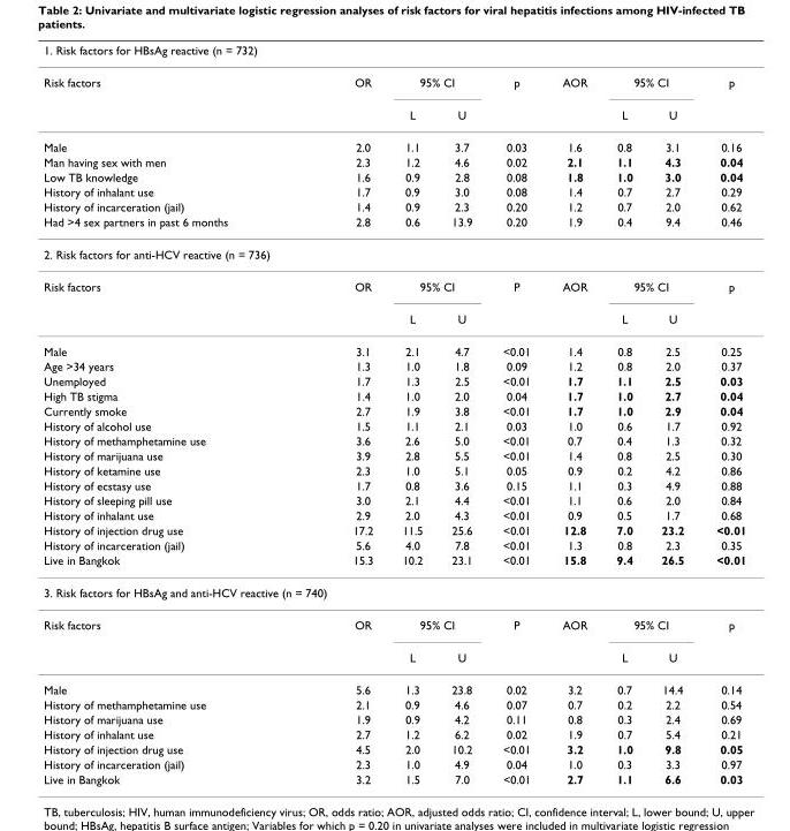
<table><thead><tr><td colspan="9">1. Risk factors for HBsAg reactive (n = 732)</td></tr><tr><td rowspan="2">Risk factors</td><td rowspan="2">OR</td><td colspan="2">95% CI</td><td rowspan="2">p</td><td rowspan="2">AOR</td><td colspan="2">95% CI</td><td rowspan="2">p</td></tr><tr><td>L</td><td>U</td><td>L</td><td>U</td></tr></thead><tbody><tr><td>Male</td><td>2.0</td><td>1.1</td><td>3.7</td><td>0.03</td><td>1.6</td><td>0.8</td><td>3.1</td><td>0.16</td></tr><tr><td>Man having sex with men</td><td>2.3</td><td>1.2</td><td>4.6</td><td>0.02</td><td>2.1</td><td>1.1</td><td>4.3</td><td>0.04</td></tr><tr><td>Low TB knowledge</td><td>1.6</td><td>0.9</td><td>2.8</td><td>0.08</td><td>1.8</td><td>1.0</td><td>3.0</td><td>0.04</td></tr><tr><td>History of inhalant use</td><td>1.7</td><td>0.9</td><td>3.0</td><td>0.08</td><td>1.4</td><td>0.7</td><td>2.7</td><td>0.29</td></tr><tr><td>History of incarceration (jail)</td><td>1.4</td><td>0.9</td><td>2.3</td><td>0.20</td><td>1.2</td><td>0.7</td><td>2.0</td><td>0.62</td></tr><tr><td>Had &gt;4 sex partners in past 6 months</td><td>2.8</td><td>0.6</td><td>13.9</td><td>0.20</td><td>1.9</td><td>0.4</td><td>9.4</td><td>0.46</td></tr><tr><td colspan="9">2. Risk factors for anti-HCV reactive (n = 736)</td></tr><tr><td rowspan="2">Risk factors</td><td>OR</td><td colspan="2">95% CI</td><td>P</td><td>AOR</td><td colspan="2">95% CI</td><td>p</td></tr><tr><td></td><td>L</td><td>U</td><td></td><td></td><td>L</td><td>U</td><td></td></tr><tr><td>Male</td><td>3.1</td><td>2.1</td><td>4.7</td><td>&lt;0.01</td><td>1.4</td><td>0.8</td><td>2.5</td><td>0.25</td></tr><tr><td>Age &gt;34 years</td><td>1.3</td><td>1.0</td><td>1.8</td><td>0.09</td><td>1.2</td><td>0.8</td><td>2.0</td><td>0.37</td></tr><tr><td>Unemployed</td><td>1.7</td><td>1.3</td><td>2.5</td><td>&lt;0.01</td><td>1.7</td><td>1.1</td><td>2.5</td><td>0.03</td></tr><tr><td>High TB stigma</td><td>1.4</td><td>1.0</td><td>2.0</td><td>0.04</td><td>1.7</td><td>1.0</td><td>2.7</td><td>0.04</td></tr><tr><td>Currently smoke</td><td>2.7</td><td>1.9</td><td>3.8</td><td>&lt;0.01</td><td>1.7</td><td>1.0</td><td>2.9</td><td>0.04</td></tr><tr><td>History of alcohol use</td><td>1.5</td><td>1.1</td><td>2.1</td><td>0.03</td><td>1.0</td><td>0.6</td><td>1.7</td><td>0.92</td></tr><tr><td>History of methamphetamine use</td><td>3.6</td><td>2.6</td><td>5.0</td><td>&lt;0.01</td><td>0.7</td><td>0.4</td><td>1.3</td><td>0.32</td></tr><tr><td>History of marijuana use</td><td>3.9</td><td>2.8</td><td>5.5</td><td>&lt;0.01</td><td>1.4</td><td>0.8</td><td>2.5</td><td>0.30</td></tr><tr><td>History of ketamine use</td><td>2.3</td><td>1.0</td><td>5.1</td><td>0.05</td><td>0.9</td><td>0.2</td><td>4.2</td><td>0.86</td></tr><tr><td>History of ecstasy use</td><td>1.7</td><td>0.8</td><td>3.6</td><td>0.15</td><td>1.1</td><td>0.3</td><td>4.9</td><td>0.88</td></tr><tr><td>History of sleeping pill use</td><td>3.0</td><td>2.1</td><td>4.4</td><td>&lt;0.01</td><td>1.1</td><td>0.6</td><td>2.0</td><td>0.84</td></tr><tr><td>History of inhalant use</td><td>2.9</td><td>2.0</td><td>4.3</td><td>&lt;0.01</td><td>0.9</td><td>0.5</td><td>1.7</td><td>0.68</td></tr><tr><td>History of injection drug use</td><td>17.2</td><td>11.5</td><td>25.6</td><td>&lt;0.01</td><td>12.8</td><td>7.0</td><td>23.2</td><td>&lt;0.01</td></tr><tr><td>History of incarceration (jail)</td><td>5.6</td><td>4.0</td><td>7.8</td><td>&lt;0.01</td><td>1.3</td><td>0.8</td><td>2.3</td><td>0.35</td></tr><tr><td>Live in Bangkok</td><td>15.3</td><td>10.2</td><td>23.1</td><td>&lt;0.01</td><td>15.8</td><td>9.4</td><td>26.5</td><td>&lt;0.01</td></tr><tr><td colspan="9">3. Risk factors for HBsAg and anti-HCV reactive (n = 740)</td></tr><tr><td rowspan="2">Risk factors</td><td>OR</td><td colspan="2">95% CI</td><td>P</td><td>AOR</td><td colspan="2">95% CI</td><td>p</td></tr><tr><td></td><td>L</td><td>U</td><td></td><td></td><td>L</td><td>U</td><td></td></tr><tr><td>Male</td><td>5.6</td><td>1.3</td><td>23.8</td><td>0.02</td><td>3.2</td><td>0.7</td><td>14.4</td><td>0.14</td></tr><tr><td>History of methamphetamine use</td><td>2.1</td><td>0.9</td><td>4.6</td><td>0.07</td><td>0.7</td><td>0.2</td><td>2.2</td><td>0.54</td></tr><tr><td>History of marijuana use</td><td>1.9</td><td>0.9</td><td>4.2</td><td>0.11</td><td>0.8</td><td>0.3</td><td>2.4</td><td>0.69</td></tr><tr><td>History of inhalant use</td><td>2.7</td><td>1.2</td><td>6.2</td><td>0.02</td><td>1.9</td><td>0.7</td><td>5.4</td><td>0.21</td></tr><tr><td>History of injection drug use</td><td>4.5</td><td>2.0</td><td>10.2</td><td>&lt;0.01</td><td>3.2</td><td>1.0</td><td>9.8</td><td>0.05</td></tr><tr><td>History of incarceration (jail)</td><td>2.3</td><td>1.0</td><td>4.9</td><td>0.04</td><td>1.0</td><td>0.3</td><td>3.3</td><td>0.97</td></tr><tr><td>Live in Bangkok</td><td>3.2</td><td>1.5</td><td>7.0</td><td>&lt;0.01</td><td>2.7</td><td>1.1</td><td>6.6</td><td>0.03</td></tr></tbody></table>